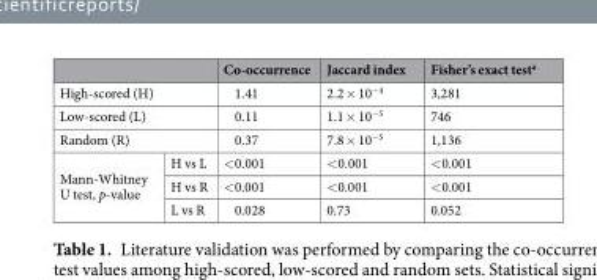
<table><thead><tr><td></td><td></td><td>Co-occurrence</td><td>Jaccard index</td><td>Fisher’s exact test<sup>a</sup></td></tr></thead><tbody><tr><td colspan="2">High-scored (H)</td><td>1.41</td><td>2.2 × 10<sup>−4</sup></td><td>3,281</td></tr><tr><td colspan="2">Low-scored (L)</td><td>0.11</td><td>1.1 × 10<sup>−5</sup></td><td>746</td></tr><tr><td colspan="2">Random (R)</td><td>0.37</td><td>7.8 × 10<sup>−5</sup></td><td>1,136</td></tr><tr><td rowspan="3">Mann-Whitney U test, p-value</td><td>H vs L</td><td>&lt;0.001</td><td>&lt;0.001</td><td>&lt;0.001</td></tr><tr><td>H vs R</td><td>&lt;0.001</td><td>&lt;0.001</td><td>&lt;0.001</td></tr><tr><td>L vs R</td><td>0.028</td><td>0.73</td><td>0.052</td></tr></tbody></table>